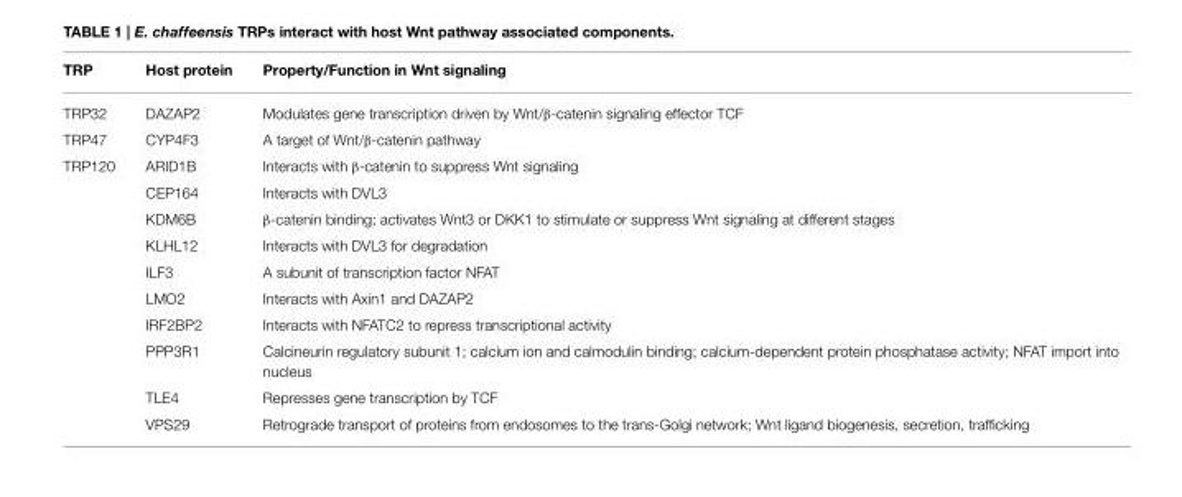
<table><thead><tr><td>TRP</td><td>Host protein</td><td>Property/Function in Wnt signaling</td></tr></thead><tbody><tr><td>TRP32</td><td>DAZAP2</td><td>Modulates gene transcription driven by Wnt/β-catenin signaling effector TCF</td></tr><tr><td>TRP47</td><td>CYP4F3</td><td>A target of Wnt/β-catenin pathway</td></tr><tr><td rowspan="10">TRP120</td><td>ARID1B</td><td>Interacts with β-catenin to suppress Wnt signaling</td></tr><tr><td>CEP164</td><td>Interacts with DVL3</td></tr><tr><td>KDM6B</td><td>β-catenin binding; activates Wnt3 or DKK1 to stimulate or suppress Wnt signaling at different stages</td></tr><tr><td>KLHL12</td><td>Interacts with DVL3 for degradation</td></tr><tr><td>ILF3</td><td>A subunit of transcription factor NFAT</td></tr><tr><td>LMO2</td><td>Interacts with Axin1 and DAZAP2</td></tr><tr><td>IRF2BP2</td><td>Interacts with NFATC2 to repress transcriptional activity</td></tr><tr><td>PPP3R1</td><td>Calcineurin regulatory subunit 1; calcium ion and calmodulin binding; calcium-dependent protein phosphatase activity; NFAT import into nucleus</td></tr><tr><td>TLE4</td><td>Represses gene transcription by TCF</td></tr><tr><td>VPS29</td><td>Retrograde transport of proteins from endosomes to the trans-Golgi network; Wnt ligand biogenesis, secretion, trafficking</td></tr></tbody></table>